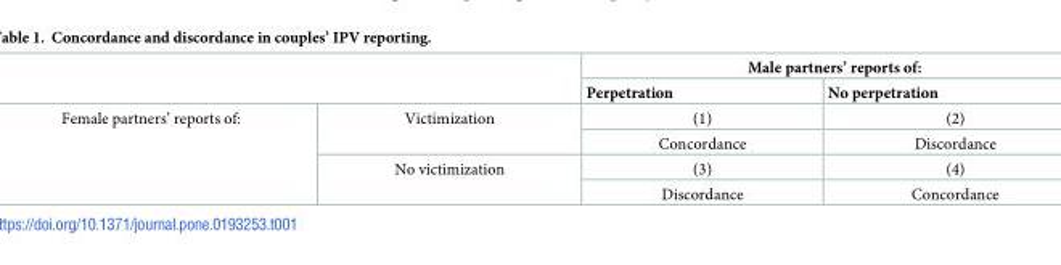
<table><thead><tr><td rowspan="2"></td><td rowspan="2"></td><td colspan="2">Male partners’ reports of:</td></tr><tr><td>Perpetration</td><td>No perpetration</td></tr></thead><tbody><tr><td rowspan="4">Female partners’ reports of:</td><td rowspan="2">Victimization</td><td>(1)</td><td>(2)</td></tr><tr><td>Concordance</td><td>Discordance</td></tr><tr><td rowspan="2">No victimization</td><td>(3)</td><td>(4)</td></tr><tr><td>Discordance</td><td>Concordance</td></tr></tbody></table>